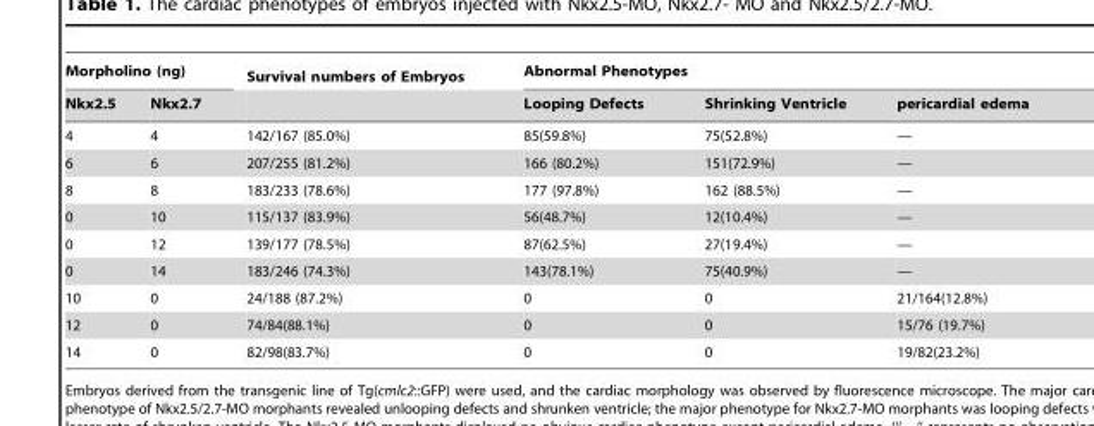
<table><thead><tr><td colspan="2">Morpholino (ng)</td><td rowspan="2">Survival numbers of Embryos</td><td colspan="3">Abnormal Phenotypes</td></tr><tr><td>Nkx2.5</td><td>Nkx2.7</td><td>Looping Defects</td><td>Shrinking Ventricle</td><td>pericardial edema</td></tr></thead><tbody><tr><td>4</td><td>4</td><td>142/167 (85.0%)</td><td>85(59.8%)</td><td>75(52.8%)</td><td>—</td></tr><tr><td>6</td><td>6</td><td>207/255 (81.2%)</td><td>166 (80.2%)</td><td>151(72.9%)</td><td>—</td></tr><tr><td>8</td><td>8</td><td>183/233 (78.6%)</td><td>177 (97.8%)</td><td>162 (88.5%)</td><td>—</td></tr><tr><td>0</td><td>10</td><td>115/137 (83.9%)</td><td>56(48.7%)</td><td>12(10.4%)</td><td>—</td></tr><tr><td>0</td><td>12</td><td>139/177 (78.5%)</td><td>87(62.5%)</td><td>27(19.4%)</td><td>—</td></tr><tr><td>0</td><td>14</td><td>183/246 (74.3%)</td><td>143(78.1%)</td><td>75(40.9%)</td><td>—</td></tr><tr><td>10</td><td>0</td><td>24/188 (87.2%)</td><td>0</td><td>0</td><td>21/164(12.8%)</td></tr><tr><td>12</td><td>0</td><td>74/84(88.1%)</td><td>0</td><td>0</td><td>15/76 (19.7%)</td></tr><tr><td>14</td><td>0</td><td>82/98(83.7%)</td><td>0</td><td>0</td><td>19/82(23.2%)</td></tr></tbody></table>